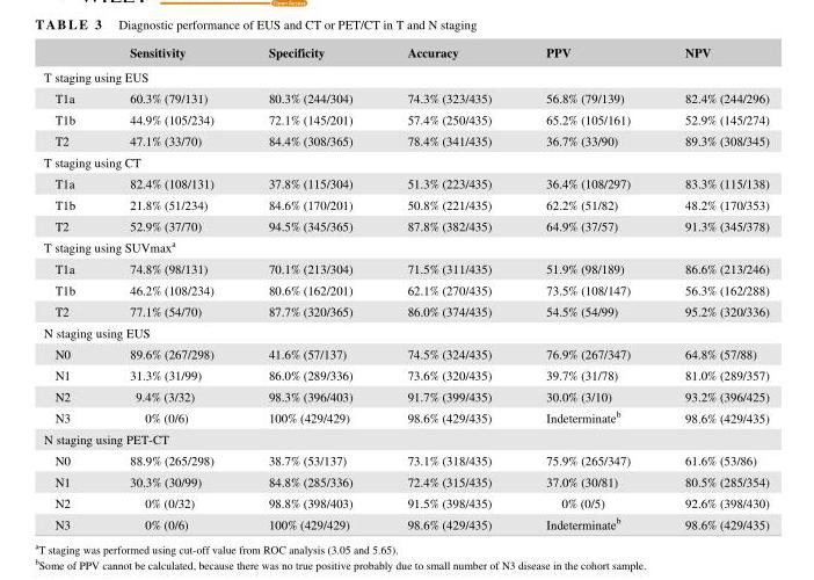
<table><thead><tr><td></td><td>Sensitivity</td><td>Specificity</td><td>Accuracy</td><td>PPV</td><td>NPV</td></tr></thead><tbody><tr><td colspan="6">T staging using EUS</td></tr><tr><td>T1a</td><td>60.3% (79/131)</td><td>80.3% (244/304)</td><td>74.3% (323/435)</td><td>56.8% (79/139)</td><td>82.4% (244/296)</td></tr><tr><td>T1b</td><td>44.9% (105/234)</td><td>72.1% (145/201)</td><td>57.4% (250/435)</td><td>65.2% (105/161)</td><td>52.9% (145/274)</td></tr><tr><td>T2</td><td>47.1% (33/70)</td><td>84.4% (308/365)</td><td>78.4% (341/435)</td><td>36.7% (33/90)</td><td>89.3% (308/345)</td></tr><tr><td colspan="6">T staging using CT</td></tr><tr><td>T1a</td><td>82.4% (108/131)</td><td>37.8% (115/304)</td><td>51.3% (223/435)</td><td>36.4% (108/297)</td><td>83.3% (115/138)</td></tr><tr><td>T1b</td><td>21.8% (51/234)</td><td>84.6% (170/201)</td><td>50.8% (221/435)</td><td>62.2% (51/82)</td><td>48.2% (170/353)</td></tr><tr><td>T2</td><td>52.9% (37/70)</td><td>94.5% (345/365)</td><td>87.8% (382/435)</td><td>64.9% (37/57)</td><td>91.3% (345/378)</td></tr><tr><td colspan="6">T staging using SUVmax<sup>a</sup></td></tr><tr><td>T1a</td><td>74.8% (98/131)</td><td>70.1% (213/304)</td><td>71.5% (311/435)</td><td>51.9% (98/189)</td><td>86.6% (213/246)</td></tr><tr><td>T1b</td><td>46.2% (108/234)</td><td>80.6% (162/201)</td><td>62.1% (270/435)</td><td>73.5% (108/147)</td><td>56.3% (162/288)</td></tr><tr><td>T2</td><td>77.1% (54/70)</td><td>87.7% (320/365)</td><td>86.0% (374/435)</td><td>54.5% (54/99)</td><td>95.2% (320/336)</td></tr><tr><td colspan="6">N staging using EUS</td></tr><tr><td>N0</td><td>89.6% (267/298)</td><td>41.6% (57/137)</td><td>74.5% (324/435)</td><td>76.9% (267/347)</td><td>64.8% (57/88)</td></tr><tr><td>N1</td><td>31.3% (31/99)</td><td>86.0% (289/336)</td><td>73.6% (320/435)</td><td>39.7% (31/78)</td><td>81.0% (289/357)</td></tr><tr><td>N2</td><td>9.4% (3/32)</td><td>98.3% (396/403)</td><td>91.7% (399/435)</td><td>30.0% (3/10)</td><td>93.2% (396/425)</td></tr><tr><td>N3</td><td>0% (0/6)</td><td>100% (429/429)</td><td>98.6% (429/435)</td><td>Indeterminate<sup>b</sup></td><td>98.6% (429/435)</td></tr><tr><td colspan="6">N staging using PET- CT</td></tr><tr><td>N0</td><td>88.9% (265/298)</td><td>38.7% (53/137)</td><td>73.1% (318/435)</td><td>75.9% (265/347)</td><td>61.6% (53/86)</td></tr><tr><td>N1</td><td>30.3% (30/99)</td><td>84.8% (285/336)</td><td>72.4% (315/435)</td><td>37.0% (30/81)</td><td>80.5% (285/354)</td></tr><tr><td>N2</td><td>0% (0/32)</td><td>98.8% (398/403)</td><td>91.5% (398/435)</td><td>0% (0/5)</td><td>92.6% (398/430)</td></tr><tr><td>N3</td><td>0% (0/6)</td><td>100% (429/429)</td><td>98.6% (429/435)</td><td>Indeterminate<sup>b</sup></td><td>98.6% (429/435)</td></tr></tbody></table>